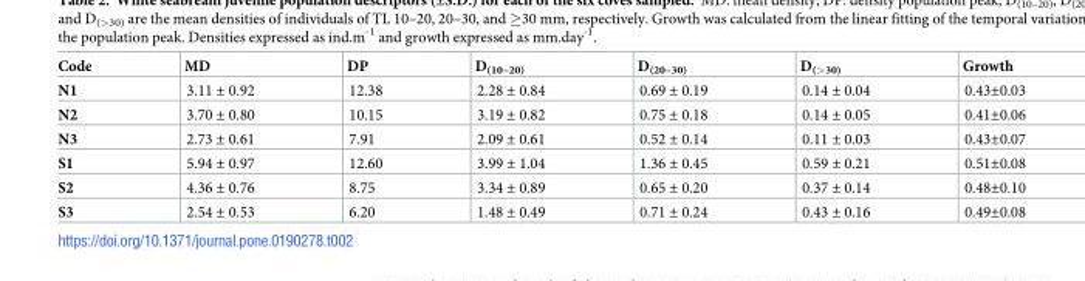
<table><thead><tr><td>Code</td><td>MD</td><td>DP</td><td>D<sub>(10–20)</sub></td><td>D<sub>(20–30)</sub></td><td>D<sub>(&gt;30)</sub></td><td>Growth</td></tr></thead><tbody><tr><td>N1</td><td>3.11 ± 0.92</td><td>12.38</td><td>2.28 ± 0.84</td><td>0.69 ± 0.19</td><td>0.14 ± 0.04</td><td>0.43±0.03</td></tr><tr><td>N2</td><td>3.70 ± 0.80</td><td>10.15</td><td>3.19 ± 0.82</td><td>0.75 ± 0.18</td><td>0.14 ± 0.05</td><td>0.41±0.06</td></tr><tr><td>N3</td><td>2.73 ± 0.61</td><td>7.91</td><td>2.09 ± 0.61</td><td>0.52 ± 0.14</td><td>0.11 ± 0.03</td><td>0.43±0.07</td></tr><tr><td>S1</td><td>5.94 ± 0.97</td><td>12.60</td><td>3.99 ± 1.04</td><td>1.36 ± 0.45</td><td>0.59 ± 0.21</td><td>0.51±0.08</td></tr><tr><td>S2</td><td>4.36 ± 0.76</td><td>8.75</td><td>3.34 ± 0.89</td><td>0.65 ± 0.20</td><td>0.37 ± 0.14</td><td>0.48±0.10</td></tr><tr><td>S3</td><td>2.54 ± 0.53</td><td>6.20</td><td>1.48 ± 0.49</td><td>0.71 ± 0.24</td><td>0.43 ± 0.16</td><td>0.49±0.08</td></tr></tbody></table>